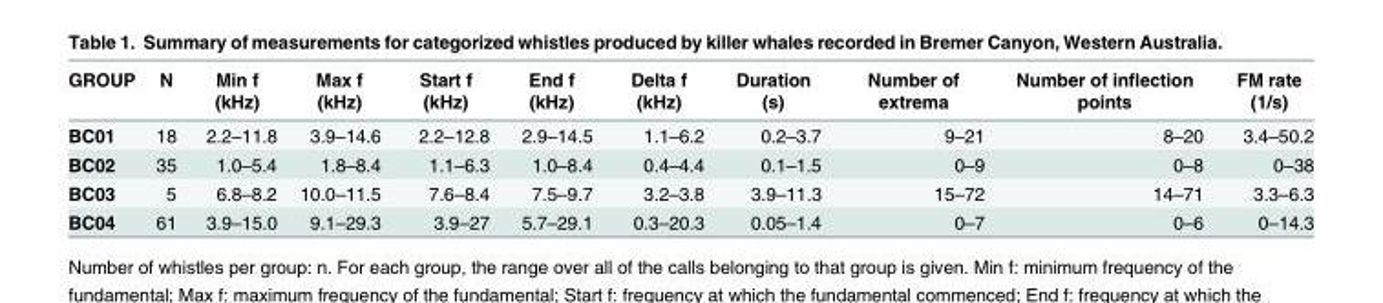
<table><thead><tr><td>GROUP</td><td>N</td><td>Min f (kHz)</td><td>Max f (kHz)</td><td>Start f (kHz)</td><td>End f (kHz)</td><td>Delta f (kHz)</td><td>Duration (s)</td><td>Number of extrema</td><td>Number of inflection points</td><td>FM rate (1/s)</td></tr></thead><tbody><tr><td>BC01</td><td>18</td><td>2.2–11.8</td><td>3.9–14.6</td><td>2.2–12.8</td><td>2.9–14.5</td><td>1.1–6.2</td><td>0.2–3.7</td><td>9–21</td><td>8–20</td><td>3.4–50.2</td></tr><tr><td>BC02</td><td>35</td><td>1.0–5.4</td><td>1.8–8.4</td><td>1.1–6.3</td><td>1.0–8.4</td><td>0.4–4.4</td><td>0.1–1.5</td><td>0–9</td><td>0–8</td><td>0–38</td></tr><tr><td>BC03</td><td>5</td><td>6.8–8.2</td><td>10.0–11.5</td><td>7.6–8.4</td><td>7.5–9.7</td><td>3.2–3.8</td><td>3.9–11.3</td><td>15–72</td><td>14–71</td><td>3.3–6.3</td></tr><tr><td>BC04</td><td>61</td><td>3.9–15.0</td><td>9.1–29.3</td><td>3.9–27</td><td>5.7–29.1</td><td>0.3–20.3</td><td>0.05–1.4</td><td>0–7</td><td>0–6</td><td>0–14.3</td></tr></tbody></table>